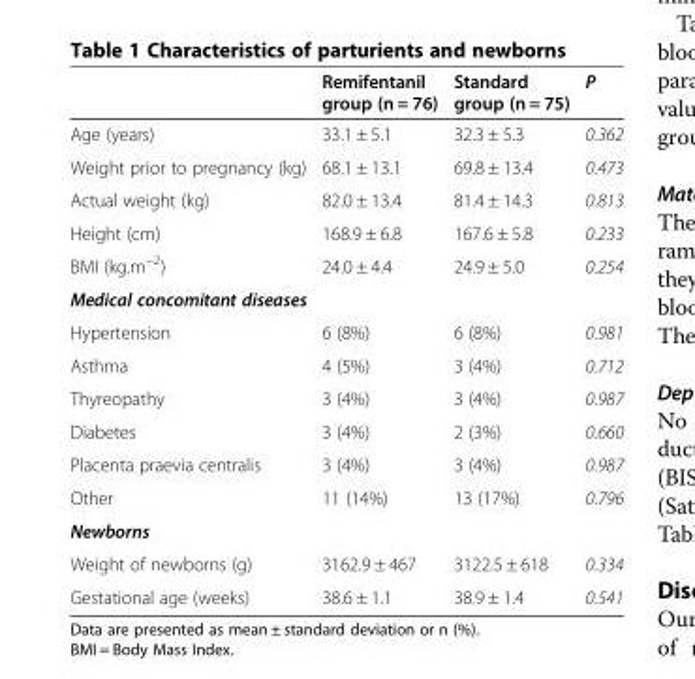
<table><thead><tr><td></td><td>Remifentanil group (n = 76)</td><td>Standard group (n = 75)</td><td>P</td></tr></thead><tbody><tr><td>Age (years)</td><td>33.1 ± 5.1</td><td>32.3 ± 5.3</td><td>0.362</td></tr><tr><td>Weight prior to pregnancy (kg)</td><td>68.1 ± 13.1</td><td>69.8 ± 13.4</td><td>0.473</td></tr><tr><td>Actual weight (kg)</td><td>82.0 ± 13.4</td><td>81.4 ± 14.3</td><td>0.813</td></tr><tr><td>Height (cm)</td><td>168.9 ± 6.8</td><td>167.6 ± 5.8</td><td>0.233</td></tr><tr><td>BMI (kg.m<sup>−2</sup>)</td><td>24.0 ± 4.4</td><td>24.9 ± 5.0</td><td>0.254</td></tr><tr><td colspan="4">Medical concomitant diseases</td></tr><tr><td>Hypertension</td><td>6 (8%)</td><td>6 (8%)</td><td>0.981</td></tr><tr><td>Asthma</td><td>4 (5%)</td><td>3 (4%)</td><td>0.712</td></tr><tr><td>Thyreopathy</td><td>3 (4%)</td><td>3 (4%)</td><td>0.987</td></tr><tr><td>Diabetes</td><td>3 (4%)</td><td>2 (3%)</td><td>0.660</td></tr><tr><td>Placenta praevia centralis</td><td>3 (4%)</td><td>3 (4%)</td><td>0.987</td></tr><tr><td>Other</td><td>11 (14%)</td><td>13 (17%)</td><td>0.796</td></tr><tr><td colspan="4">Newborns</td></tr><tr><td>Weight of newborns (g)</td><td>3162.9 ± 467</td><td>3122.5 ± 618</td><td>0.334</td></tr><tr><td>Gestational age (weeks)</td><td>38.6 ± 1.1</td><td>38.9 ± 1.4</td><td>0.541</td></tr></tbody></table>